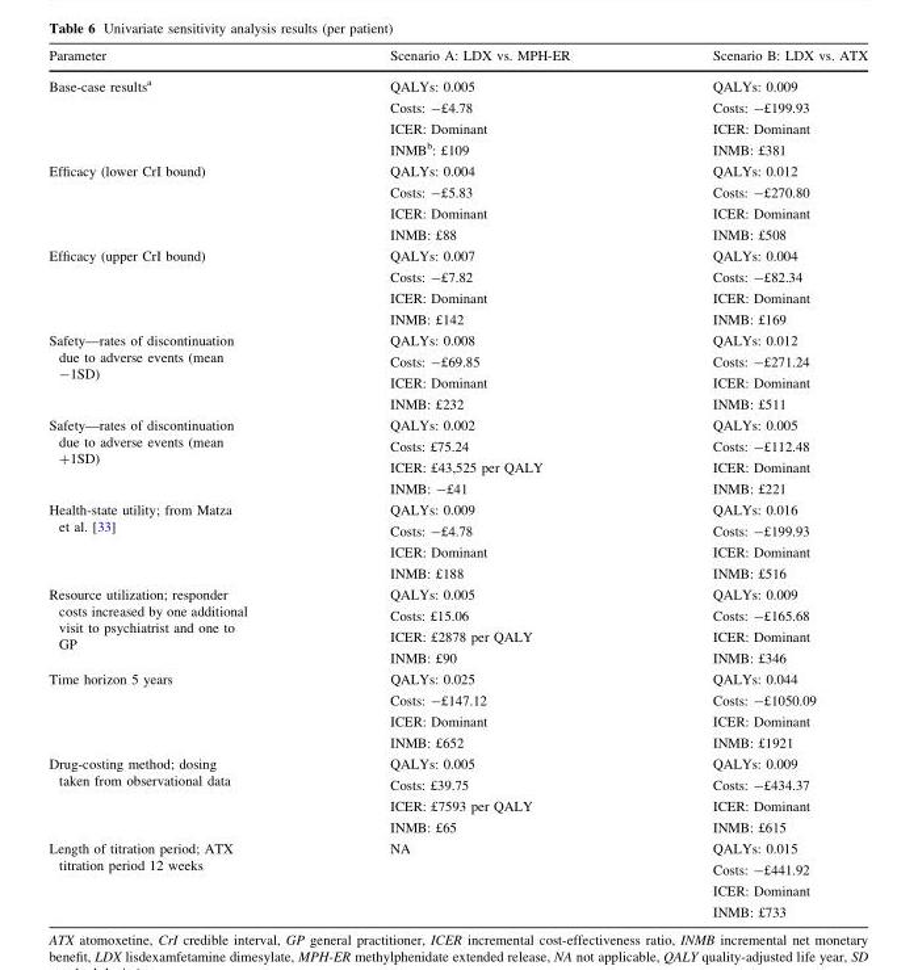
<table><thead><tr><td>Parameter</td><td>Scenario A: LDX vs. MPH-ER</td><td>Scenario B: LDX vs. ATX</td></tr></thead><tbody><tr><td rowspan="4">Base-case results<sup>a</sup></td><td>QALYs: 0.005</td><td>QALYs: 0.009</td></tr><tr><td>Costs: -£4.78</td><td>Costs: -£199.93</td></tr><tr><td>ICER: Dominant</td><td>ICER: Dominant</td></tr><tr><td>INMB<sup>b</sup>: £109</td><td>INMB: £381</td></tr><tr><td rowspan="4">Efficacy (lower CrI bound)</td><td>QALYs: 0.004</td><td>QALYs: 0.012</td></tr><tr><td>Costs: -£5.83</td><td>Costs: -£270.80</td></tr><tr><td>ICER: Dominant</td><td>ICER: Dominant</td></tr><tr><td>INMB: £88</td><td>INMB: £508</td></tr><tr><td rowspan="4">Efficacy (upper CrI bound)</td><td>QALYs: 0.007</td><td>QALYs: 0.004</td></tr><tr><td>Costs: -£7.82</td><td>Costs: -£82.34</td></tr><tr><td>ICER: Dominant</td><td>ICER: Dominant</td></tr><tr><td>INMB: £142</td><td>INMB: £169</td></tr><tr><td rowspan="4">Safety—rates of discontinuation due to adverse events (mean -1SD)</td><td>QALYs: 0.008</td><td>QALYs: 0.012</td></tr><tr><td>Costs: -£69.85</td><td>Costs: -£271.24</td></tr><tr><td>ICER: Dominant</td><td>ICER: Dominant</td></tr><tr><td>INMB: £232</td><td>INMB: £511</td></tr><tr><td rowspan="4">Safety—rates of discontinuation due to adverse events (mean +1SD)</td><td>QALYs: 0.002</td><td>QALYs: 0.005</td></tr><tr><td>Costs: £75.24</td><td>Costs: -£112.48</td></tr><tr><td>ICER: £43,525 per QALY</td><td>ICER: Dominant</td></tr><tr><td>INMB: -£41</td><td>INMB: £221</td></tr><tr><td rowspan="4">Health-state utility; from Matza et al. [33]</td><td>QALYs: 0.009</td><td>QALYs: 0.016</td></tr><tr><td>Costs: -£4.78</td><td>Costs: -£199.93</td></tr><tr><td>ICER: Dominant</td><td>ICER: Dominant</td></tr><tr><td>INMB: £188</td><td>INMB: £516</td></tr><tr><td rowspan="4">Resource utilization; responder costs increased by one additional visit to psychiatrist and one to GP</td><td>QALYs: 0.005</td><td>QALYs: 0.009</td></tr><tr><td>Costs: £15.06</td><td>Costs: -£165.68</td></tr><tr><td>ICER: £2878 per QALY</td><td>ICER: Dominant</td></tr><tr><td>INMB: £90</td><td>INMB: £346</td></tr><tr><td rowspan="4">Time horizon 5 years</td><td>QALYs: 0.025</td><td>QALYs: 0.044</td></tr><tr><td>Costs: -£147.12</td><td>Costs: -£1050.09</td></tr><tr><td>ICER: Dominant</td><td>ICER: Dominant</td></tr><tr><td>INMB: £652</td><td>INMB: £1921</td></tr><tr><td rowspan="4">Drug-costing method; dosing taken from observational data</td><td>QALYs: 0.005</td><td>QALYs: 0.009</td></tr><tr><td>Costs: £39.75</td><td>Costs: -£434.37</td></tr><tr><td>ICER: £7593 per QALY</td><td>ICER: Dominant</td></tr><tr><td>INMB: £65</td><td>INMB: £615</td></tr><tr><td rowspan="4">Length of titration period; ATX titration period 12 weeks</td><td rowspan="4">NA</td><td>QALYs: 0.015</td></tr><tr><td>Costs: -£441.92</td></tr><tr><td>ICER: Dominant</td></tr><tr><td>INMB: £733</td></tr></tbody></table>